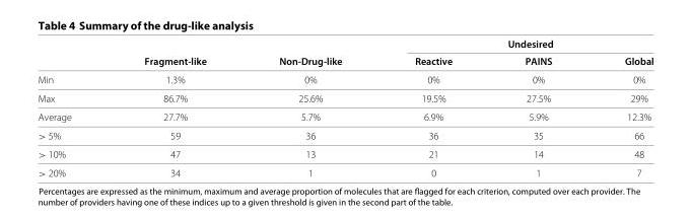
<table><thead><tr><td rowspan="2"></td><td rowspan="2">Fragment-like</td><td rowspan="2">Non-Drug-like</td><td rowspan="2">Reactive</td><td rowspan="2">Undesired PAINS</td><td rowspan="2">Global</td></tr><tr></tr></thead><tbody><tr><td>Min</td><td>1.3%</td><td>0%</td><td>0%</td><td>0%</td><td>0%</td></tr><tr><td>Max</td><td>86.7%</td><td>25.6%</td><td>19.5%</td><td>27.5%</td><td>29%</td></tr><tr><td>Average</td><td>27.7%</td><td>5.7%</td><td>6.9%</td><td>5.9%</td><td>12.3%</td></tr><tr><td>&gt; 5%</td><td>59</td><td>36</td><td>36</td><td>35</td><td>66</td></tr><tr><td>&gt; 10%</td><td>47</td><td>13</td><td>21</td><td>14</td><td>48</td></tr><tr><td>&gt; 20%</td><td>34</td><td>1</td><td>0</td><td>1</td><td>7</td></tr></tbody></table>